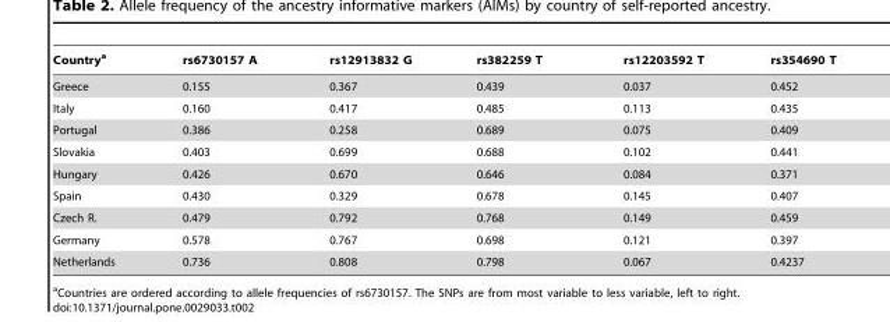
<table><thead><tr><td>Country<sup>a</sup></td><td>rs6730157 A</td><td>rs12913832 G</td><td>rs382259 T</td><td>rs12203592 T</td><td>rs354690 T</td></tr></thead><tbody><tr><td>Greece</td><td>0.155</td><td>0.367</td><td>0.439</td><td>0.037</td><td>0.452</td></tr><tr><td>Italy</td><td>0.160</td><td>0.417</td><td>0.485</td><td>0.113</td><td>0.435</td></tr><tr><td>Portugal</td><td>0.386</td><td>0.258</td><td>0.689</td><td>0.075</td><td>0.409</td></tr><tr><td>Slovakia</td><td>0.403</td><td>0.699</td><td>0.688</td><td>0.102</td><td>0.441</td></tr><tr><td>Hungary</td><td>0.426</td><td>0.670</td><td>0.646</td><td>0.084</td><td>0.371</td></tr><tr><td>Spain</td><td>0.430</td><td>0.329</td><td>0.678</td><td>0.145</td><td>0.407</td></tr><tr><td>Czech R.</td><td>0.479</td><td>0.792</td><td>0.768</td><td>0.149</td><td>0.459</td></tr><tr><td>Germany</td><td>0.578</td><td>0.767</td><td>0.698</td><td>0.121</td><td>0.397</td></tr><tr><td>Netherlands</td><td>0.736</td><td>0.808</td><td>0.798</td><td>0.067</td><td>0.4237</td></tr></tbody></table>